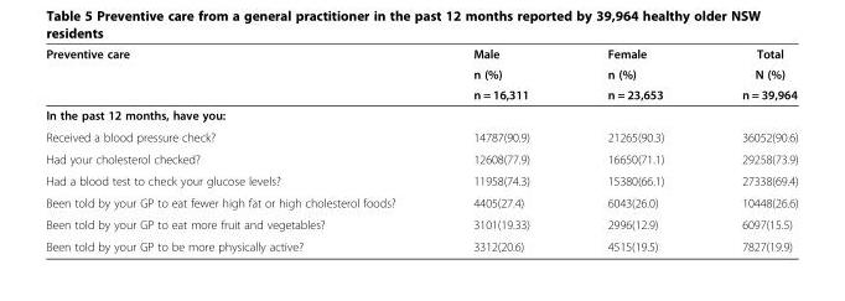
<table><thead><tr><td rowspan="3">Preventive care</td><td rowspan="3">Male n (%) n = 16,311</td><td rowspan="3">Female n (%) n = 23,653</td><td rowspan="3">Total N (%) n = 39,964</td></tr><tr></tr><tr></tr></thead><tbody><tr><td colspan="4">In the past 12 months, have you:</td></tr><tr><td>Received a blood pressure check?</td><td>14787(90.9)</td><td>21265(90.3)</td><td>36052(90.6)</td></tr><tr><td>Had your cholesterol checked?</td><td>12608(77.9)</td><td>16650(71.1)</td><td>29258(73.9)</td></tr><tr><td>Had a blood test to check your glucose levels?</td><td>11958(74.3)</td><td>15380(66.1)</td><td>27338(69.4)</td></tr><tr><td>Been told by your GP to eat fewer high fat or high cholesterol foods?</td><td>4405(27.4)</td><td>6043(26.0)</td><td>10448(26.6)</td></tr><tr><td>Been told by your GP to eat more fruit and vegetables?</td><td>3101(19.33)</td><td>2996(12.9)</td><td>6097(15.5)</td></tr><tr><td>Been told by your GP to be more physically active?</td><td>3312(20.6)</td><td>4515(19.5)</td><td>7827(19.9)</td></tr></tbody></table>